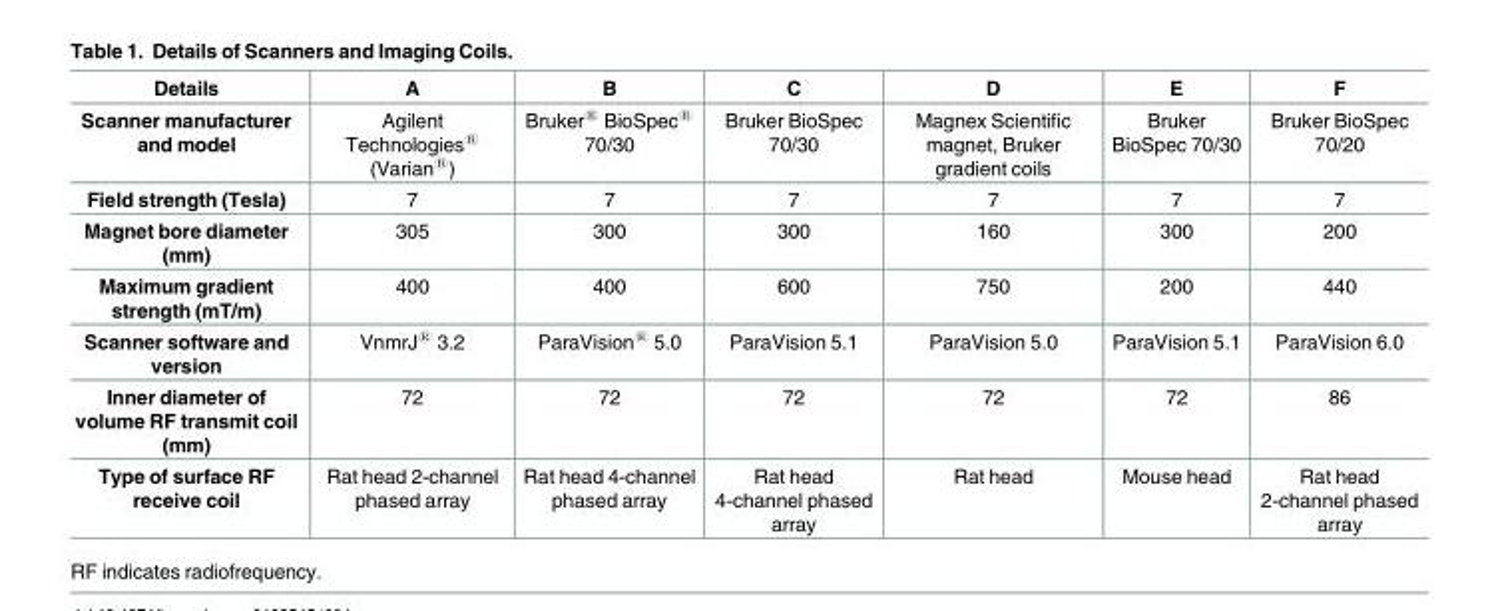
<table><thead><tr><td>Details</td><td>A</td><td>B</td><td>C</td><td>D</td><td>E</td><td>F</td></tr></thead><tbody><tr><td>Scanner manufacturer and model</td><td>Agilent Technologies<sup>®</sup> (Varian<sup>®</sup>)</td><td>Bruker<sup>®</sup> BioSpec<sup>®</sup> 70/30</td><td>Bruker BioSpec 70/30</td><td>Magnex Scientific magnet, Bruker gradient coils</td><td>Bruker BioSpec 70/30</td><td>Bruker BioSpec 70/20</td></tr><tr><td>Field strength (Tesla)</td><td>7</td><td>7</td><td>7</td><td>7</td><td>7</td><td>7</td></tr><tr><td>Magnet bore diameter (mm)</td><td>305</td><td>300</td><td>300</td><td>160</td><td>300</td><td>200</td></tr><tr><td>Maximum gradient strength (mT/m)</td><td>400</td><td>400</td><td>600</td><td>750</td><td>200</td><td>440</td></tr><tr><td>Scanner software and version</td><td>VnmrJ<sup>®</sup> 3.2</td><td>ParaVision<sup>®</sup> 5.0</td><td>ParaVision 5.1</td><td>ParaVision 5.0</td><td>ParaVision 5.1</td><td>ParaVision 6.0</td></tr><tr><td>Inner diameter of volume RF transmit coil (mm)</td><td>72</td><td>72</td><td>72</td><td>72</td><td>72</td><td>86</td></tr><tr><td>Type of surface RF receive coil</td><td>Rat head 2-channel phased array</td><td>Rat head 4-channel phased array</td><td>Rat head 4-channel phased array</td><td>Rat head</td><td>Mouse head</td><td>Rat head 2-channel phased array</td></tr></tbody></table>